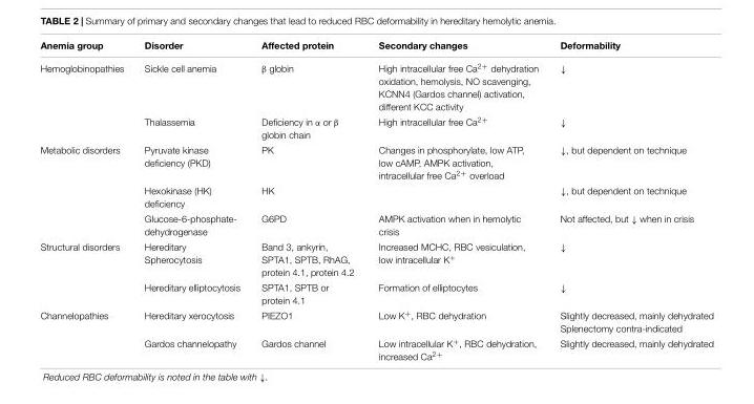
<table><thead><tr><td>Anemia group</td><td>Disorder</td><td>Affected protein</td><td>Secondary changes</td><td>Deformability</td></tr></thead><tbody><tr><td rowspan="2">Hemoglobinopathies</td><td>Sickle cell anemia</td><td>β globin</td><td>High intracellular free Ca<sup>2+</sup> dehydration oxidation, hemolysis, NO scavenging, KCNN4 (Gardos channel) activation, different KCC activity</td><td>↓</td></tr><tr><td>Thalassemia</td><td>Deficiency in α or β globin chain</td><td>High intracellular free Ca<sup>2+</sup></td><td>↓</td></tr><tr><td rowspan="3">Metabolic disorders</td><td>Pyruvate kinase deficiency (PKD)</td><td>PK</td><td>Changes in phosphorylate, low ATP, low cAMP, AMPK activation, intracellular free Ca<sup>2+</sup> overload</td><td>↓, but dependent on technique</td></tr><tr><td>Hexokinase (HK) deficiency</td><td>HK</td><td></td><td>↓, but dependent on technique</td></tr><tr><td>Glucose-6-phosphate- dehydrogenase</td><td>G6PD</td><td>AMPK activation when in hemolytic crisis</td><td>Not affected, but ↓ when in crisis</td></tr><tr><td rowspan="2">Structural disorders</td><td>Hereditary Spherocytosis</td><td>Band 3, ankyrin, SPTA1, SPTB, RhAG, protein 4.1, protein 4.2</td><td>Increased MCHC, RBC vesiculation, low intracellular K<sup>+</sup></td><td>↓</td></tr><tr><td>Hereditary elliptocytosis</td><td>SPTA1, SPTB or protein 4.1</td><td>Formation of elliptocytes</td><td>↓</td></tr><tr><td rowspan="2">Channelopathies</td><td>Hereditary xerocytosis</td><td>PIEZO1</td><td>Low K<sup>+</sup>, RBC dehydration</td><td>Slightly decreased, mainly dehydrated Splenectomy contra-indicated</td></tr><tr><td>Gardos channelopathy</td><td>Gardos channel</td><td>Low intracellular K<sup>+</sup>, RBC dehydration, increased Ca<sup>2+</sup></td><td>Slightly decreased, mainly dehydrated</td></tr></tbody></table>